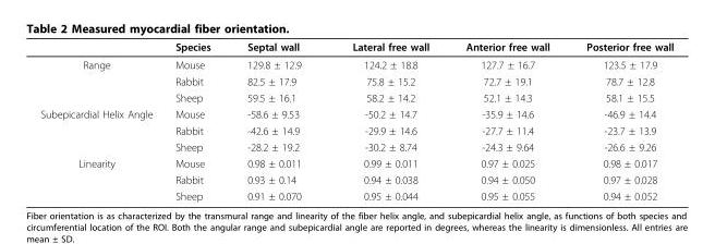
<table><thead><tr><td></td><td>Species</td><td>Septal wall</td><td>Lateral free wall</td><td>Anterior free wall</td><td>Posterior free wall</td></tr></thead><tbody><tr><td rowspan="3">Range</td><td>Mouse</td><td>129.8 ± 12.9</td><td>124.2 ± 18.8</td><td>127.7 ± 16.7</td><td>123.5 ± 17.9</td></tr><tr><td>Rabbit</td><td>82.5 ± 17.9</td><td>75.8 ± 15.2</td><td>72.7 ± 19.1</td><td>78.7 ± 12.8</td></tr><tr><td>Sheep</td><td>59.5 ± 16.1</td><td>58.2 ± 14.2</td><td>52.1 ± 14.3</td><td>58.1 ± 15.5</td></tr><tr><td rowspan="3">Subepicardial Helix Angle</td><td>Mouse</td><td>-58.6 ± 9.53</td><td>-50.2 ± 14.7</td><td>-35.9 ± 14.6</td><td>-46.9 ± 14.4</td></tr><tr><td>Rabbit</td><td>-42.6 ± 14.9</td><td>-29.9 ± 14.6</td><td>-27.7 ± 11.4</td><td>-23.7 ± 13.9</td></tr><tr><td>Sheep</td><td>-28.2 ± 19.2</td><td>-30.2 ± 8.74</td><td>-24.3 ± 9.64</td><td>-26.6 ± 9.26</td></tr><tr><td rowspan="3">Linearity</td><td>Mouse</td><td>0.98 ± 0.011</td><td>0.99 ± 0.011</td><td>0.97 ± 0.025</td><td>0.98 ± 0.017</td></tr><tr><td>Rabbit</td><td>0.93 ± 0.14</td><td>0.94 ± 0.038</td><td>0.94 ± 0.050</td><td>0.97 ± 0.028</td></tr><tr><td>Sheep</td><td>0.91 ± 0.070</td><td>0.95 ± 0.044</td><td>0.95 ± 0.055</td><td>0.94 ± 0.052</td></tr></tbody></table>